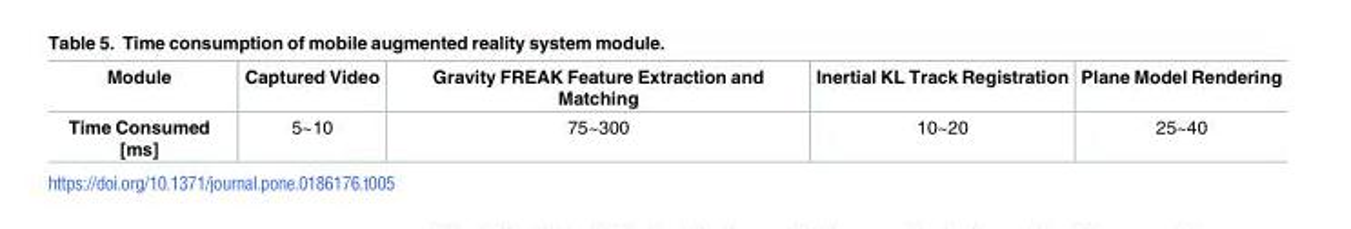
<table><thead><tr><td>Module</td><td>Captured Video</td><td>Gravity FREAK Feature Extraction and Matching</td><td>Inertial KL Track Registration</td><td>Plane Model Rendering</td></tr></thead><tbody><tr><td>Time Consumed [ms]</td><td>5~10</td><td>75~300</td><td>10~20</td><td>25~40</td></tr></tbody></table>